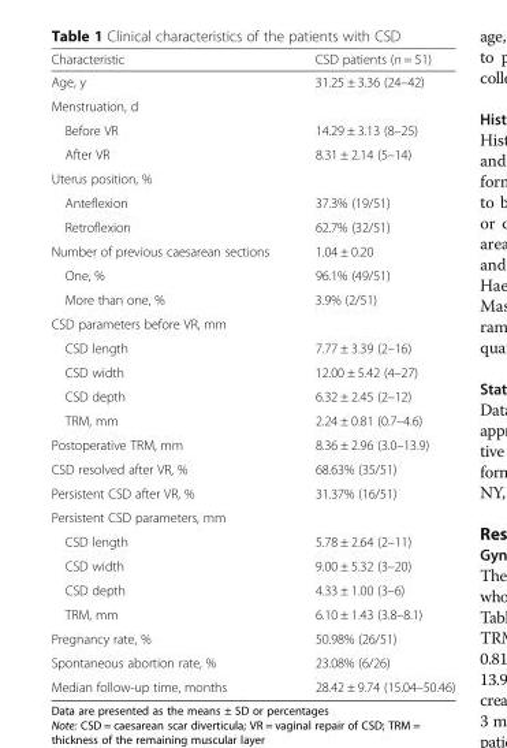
<table><thead><tr><td>Characteristic</td><td>CSD patients (n = 51)</td></tr></thead><tbody><tr><td>Age, y</td><td>31.25 ± 3.36 (24–42)</td></tr><tr><td colspan="2">Menstruation, d</td></tr><tr><td>Before VR</td><td>14.29 ± 3.13 (8–25)</td></tr><tr><td>After VR</td><td>8.31 ± 2.14 (5–14)</td></tr><tr><td colspan="2">Uterus position, %</td></tr><tr><td>Anteflexion</td><td>37.3% (19/51)</td></tr><tr><td>Retroflexion</td><td>62.7% (32/51)</td></tr><tr><td>Number of previous caesarean sections</td><td>1.04 ± 0.20</td></tr><tr><td>One, %</td><td>96.1% (49/51)</td></tr><tr><td>More than one, %</td><td>3.9% (2/51)</td></tr><tr><td colspan="2">CSD parameters before VR, mm</td></tr><tr><td>CSD length</td><td>7.77 ± 3.39 (2–16)</td></tr><tr><td>CSD width</td><td>12.00 ± 5.42 (4–27)</td></tr><tr><td>CSD depth</td><td>6.32 ± 2.45 (2–12)</td></tr><tr><td>TRM, mm</td><td>2.24 ± 0.81 (0.7–4.6)</td></tr><tr><td>Postoperative TRM, mm</td><td>8.36 ± 2.96 (3.0–13.9)</td></tr><tr><td>CSD resolved after VR, %</td><td>68.63% (35/51)</td></tr><tr><td>Persistent CSD after VR, %</td><td>31.37% (16/51)</td></tr><tr><td colspan="2">Persistent CSD parameters, mm</td></tr><tr><td>CSD length</td><td>5.78 ± 2.64 (2–11)</td></tr><tr><td>CSD width</td><td>9.00 ± 5.32 (3–20)</td></tr><tr><td>CSD depth</td><td>4.33 ± 1.00 (3–6)</td></tr><tr><td>TRM, mm</td><td>6.10 ± 1.43 (3.8–8.1)</td></tr><tr><td>Pregnancy rate, %</td><td>50.98% (26/51)</td></tr><tr><td>Spontaneous abortion rate, %</td><td>23.08% (6/26)</td></tr><tr><td>Median follow-up time, months</td><td>28.42 ± 9.74 (15.04–50.46)</td></tr></tbody></table>